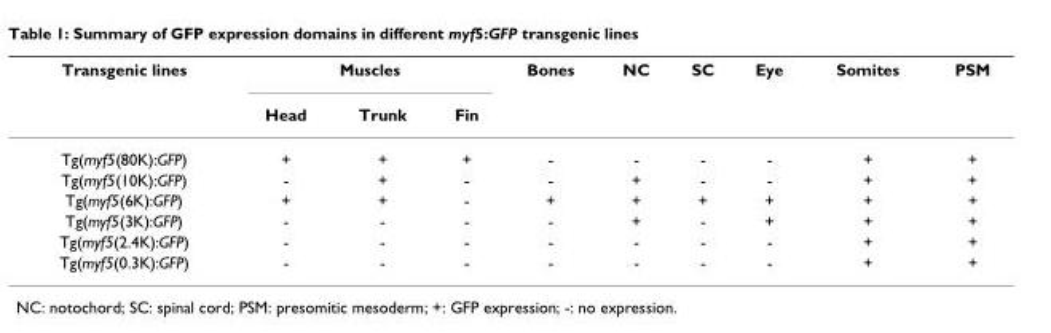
<table><thead><tr><td rowspan="2">Transgenic lines</td><td colspan="3">Muscles</td><td rowspan="2">Bones</td><td rowspan="2">NC</td><td rowspan="2">SC</td><td rowspan="2">Eye</td><td rowspan="2">Somites</td><td rowspan="2">PSM</td></tr><tr><td>Head</td><td>Trunk</td><td>Fin</td></tr></thead><tbody><tr><td>Tg(myf5(80K):GFP)</td><td>+</td><td>+</td><td>+</td><td>-</td><td>-</td><td>-</td><td>-</td><td>+</td><td>+</td></tr><tr><td>Tg(myf5(10K):GFP)</td><td>-</td><td>+</td><td>-</td><td>-</td><td>+</td><td>-</td><td>-</td><td>+</td><td>+</td></tr><tr><td>Tg(myf5(6K):GFP)</td><td>+</td><td>+</td><td>-</td><td>+</td><td>+</td><td>+</td><td>+</td><td>+</td><td>+</td></tr><tr><td>Tg(myf5(3K):GFP)</td><td>-</td><td>-</td><td>-</td><td>-</td><td>+</td><td>-</td><td>+</td><td>+</td><td>+</td></tr><tr><td>Tg(myf5(2.4K):GFP)</td><td>-</td><td>-</td><td>-</td><td>-</td><td>-</td><td>-</td><td>-</td><td>+</td><td>+</td></tr><tr><td>Tg(myf5(0.3K):GFP)</td><td>-</td><td>-</td><td>-</td><td>-</td><td>-</td><td>-</td><td>-</td><td>+</td><td>+</td></tr></tbody></table>